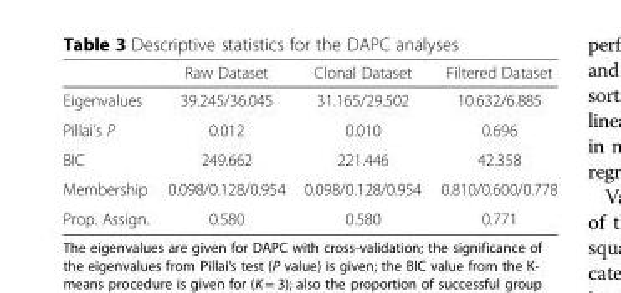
<table><thead><tr><td></td><td>Raw Dataset</td><td>Clonal Dataset</td><td>Filtered Dataset</td></tr></thead><tbody><tr><td>Eigenvalues</td><td>39.245/36.045</td><td>31.165/29.502</td><td>10.632/6.885</td></tr><tr><td>Pillai’s P</td><td>0.012</td><td>0.010</td><td>0.696</td></tr><tr><td>BIC</td><td>249.662</td><td>221.446</td><td>42.358</td></tr><tr><td>Membership</td><td>0.098/0.128/0.954</td><td>0.098/0.128/0.954</td><td>0.810/0.600/0.778</td></tr><tr><td>Prop. Assign.</td><td>0.580</td><td>0.580</td><td>0.771</td></tr></tbody></table>